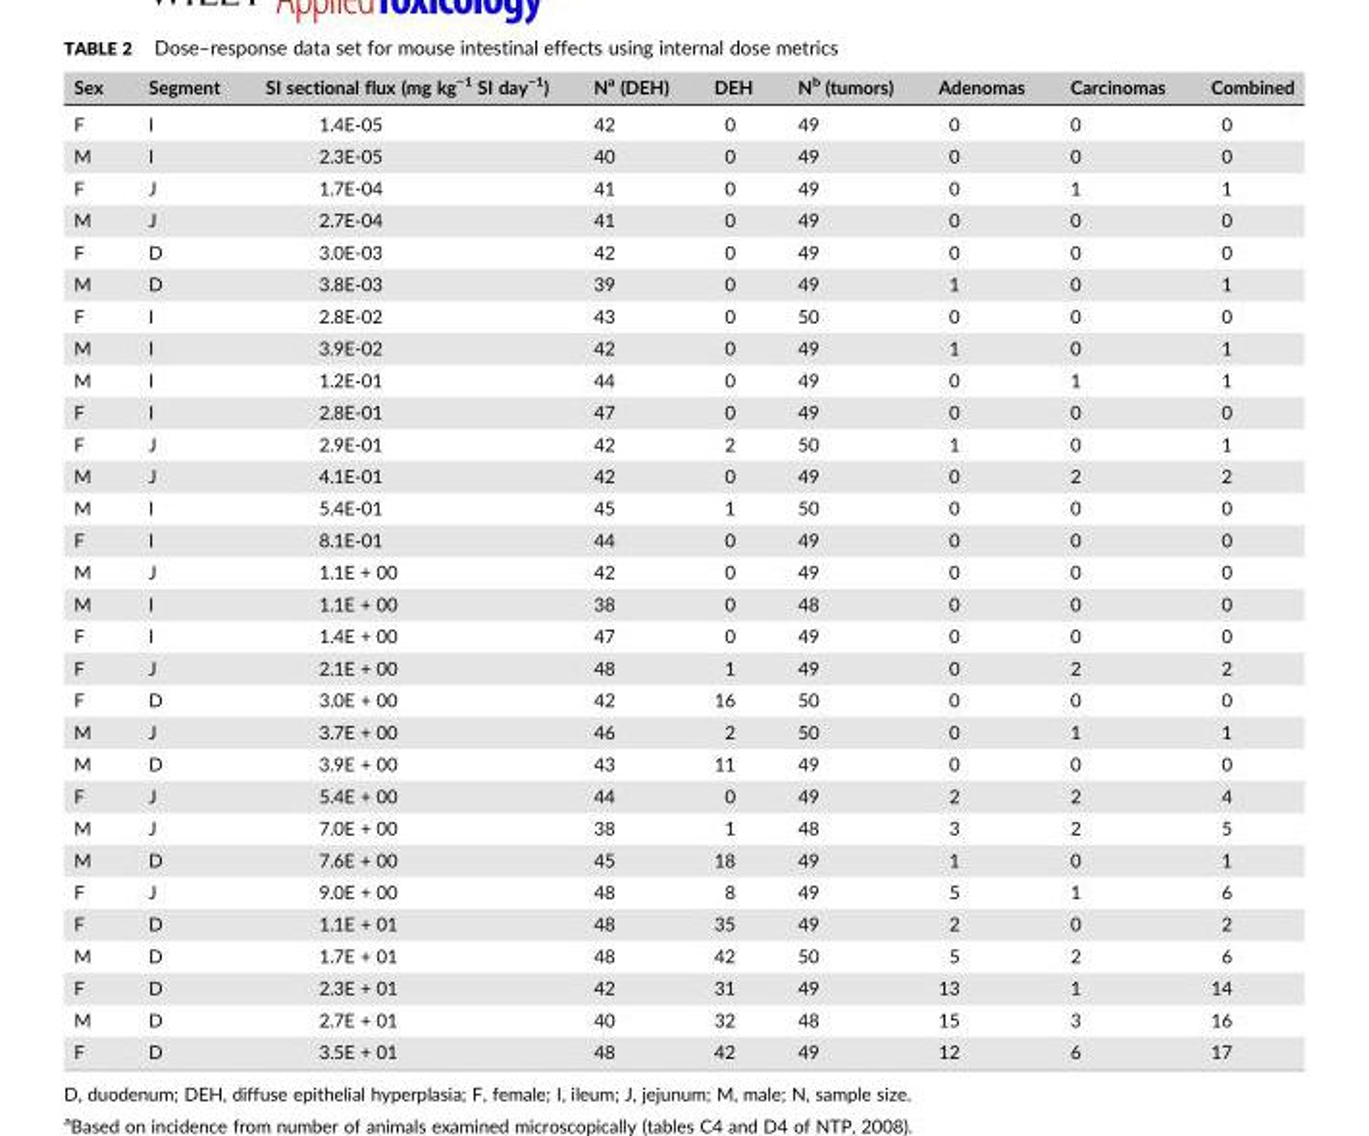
<table><thead><tr><td>Sex</td><td>Segment</td><td>SI sectional flux (mg kg<sup>−1</sup> SI day<sup>−1</sup>)</td><td>N<sup>a</sup> (DEH)</td><td>DEH</td><td>N<sup>b</sup> (tumors)</td><td>Adenomas</td><td>Carcinomas</td><td>Combined</td></tr></thead><tbody><tr><td>F</td><td>I</td><td>1.4E‐05</td><td>42</td><td>0</td><td>49</td><td>0</td><td>0</td><td>0</td></tr><tr><td>M</td><td>I</td><td>2.3E‐05</td><td>40</td><td>0</td><td>49</td><td>0</td><td>0</td><td>0</td></tr><tr><td>F</td><td>J</td><td>1.7E‐04</td><td>41</td><td>0</td><td>49</td><td>0</td><td>1</td><td>1</td></tr><tr><td>M</td><td>J</td><td>2.7E‐04</td><td>41</td><td>0</td><td>49</td><td>0</td><td>0</td><td>0</td></tr><tr><td>F</td><td>D</td><td>3.0E‐03</td><td>42</td><td>0</td><td>49</td><td>0</td><td>0</td><td>0</td></tr><tr><td>M</td><td>D</td><td>3.8E‐03</td><td>39</td><td>0</td><td>49</td><td>1</td><td>0</td><td>1</td></tr><tr><td>F</td><td>I</td><td>2.8E‐02</td><td>43</td><td>0</td><td>50</td><td>0</td><td>0</td><td>0</td></tr><tr><td>M</td><td>I</td><td>3.9E‐02</td><td>42</td><td>0</td><td>49</td><td>1</td><td>0</td><td>1</td></tr><tr><td>M</td><td>I</td><td>1.2E‐01</td><td>44</td><td>0</td><td>49</td><td>0</td><td>1</td><td>1</td></tr><tr><td>F</td><td>I</td><td>2.8E‐01</td><td>47</td><td>0</td><td>49</td><td>0</td><td>0</td><td>0</td></tr><tr><td>F</td><td>J</td><td>2.9E‐01</td><td>42</td><td>2</td><td>50</td><td>1</td><td>0</td><td>1</td></tr><tr><td>M</td><td>J</td><td>4.1E‐01</td><td>42</td><td>0</td><td>49</td><td>0</td><td>2</td><td>2</td></tr><tr><td>M</td><td>I</td><td>5.4E‐01</td><td>45</td><td>1</td><td>50</td><td>0</td><td>0</td><td>0</td></tr><tr><td>F</td><td>I</td><td>8.1E‐01</td><td>44</td><td>0</td><td>49</td><td>0</td><td>0</td><td>0</td></tr><tr><td>M</td><td>J</td><td>1.1E + 00</td><td>42</td><td>0</td><td>49</td><td>0</td><td>0</td><td>0</td></tr><tr><td>M</td><td>I</td><td>1.1E + 00</td><td>38</td><td>0</td><td>48</td><td>0</td><td>0</td><td>0</td></tr><tr><td>F</td><td>I</td><td>1.4E + 00</td><td>47</td><td>0</td><td>49</td><td>0</td><td>0</td><td>0</td></tr><tr><td>F</td><td>J</td><td>2.1E + 00</td><td>48</td><td>1</td><td>49</td><td>0</td><td>2</td><td>2</td></tr><tr><td>F</td><td>D</td><td>3.0E + 00</td><td>42</td><td>16</td><td>50</td><td>0</td><td>0</td><td>0</td></tr><tr><td>M</td><td>J</td><td>3.7E + 00</td><td>46</td><td>2</td><td>50</td><td>0</td><td>1</td><td>1</td></tr><tr><td>M</td><td>D</td><td>3.9E + 00</td><td>43</td><td>11</td><td>49</td><td>0</td><td>0</td><td>0</td></tr><tr><td>F</td><td>J</td><td>5.4E + 00</td><td>44</td><td>0</td><td>49</td><td>2</td><td>2</td><td>4</td></tr><tr><td>M</td><td>J</td><td>7.0E + 00</td><td>38</td><td>1</td><td>48</td><td>3</td><td>2</td><td>5</td></tr><tr><td>M</td><td>D</td><td>7.6E + 00</td><td>45</td><td>18</td><td>49</td><td>1</td><td>0</td><td>1</td></tr><tr><td>F</td><td>J</td><td>9.0E + 00</td><td>48</td><td>8</td><td>49</td><td>5</td><td>1</td><td>6</td></tr><tr><td>F</td><td>D</td><td>1.1E + 01</td><td>48</td><td>35</td><td>49</td><td>2</td><td>0</td><td>2</td></tr><tr><td>M</td><td>D</td><td>1.7E + 01</td><td>48</td><td>42</td><td>50</td><td>5</td><td>2</td><td>6</td></tr><tr><td>F</td><td>D</td><td>2.3E + 01</td><td>42</td><td>31</td><td>49</td><td>13</td><td>1</td><td>14</td></tr><tr><td>M</td><td>D</td><td>2.7E + 01</td><td>40</td><td>32</td><td>48</td><td>15</td><td>3</td><td>16</td></tr><tr><td>F</td><td>D</td><td>3.5E + 01</td><td>48</td><td>42</td><td>49</td><td>12</td><td>6</td><td>17</td></tr></tbody></table>